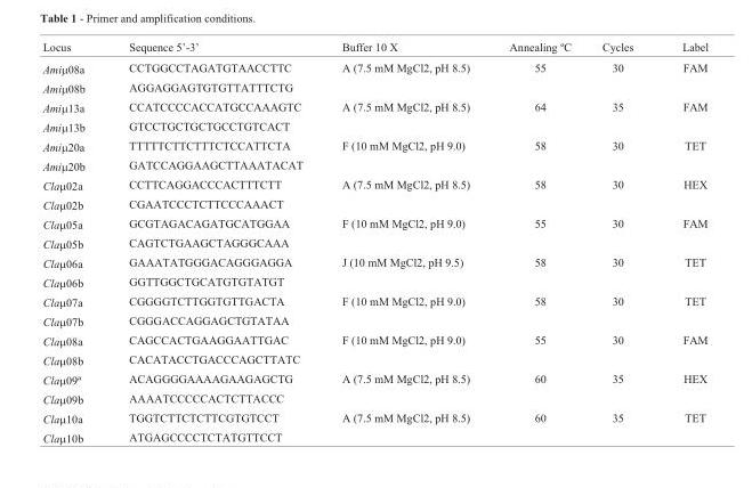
<table><thead><tr><td>Locus</td><td>Sequence 5’-3’</td><td>Buffer 10 X</td><td>Annealing ºC</td><td>Cycles</td><td>Label</td></tr></thead><tbody><tr><td>Amiμ08a</td><td>CCTGGCCTAGATGTAACCTTC</td><td>A (7.5 mM MgCl2, pH 8.5)</td><td>55</td><td>30</td><td>FAM</td></tr><tr><td>Amiμ08b</td><td>AGGAGGAGTGTGTTATTTCTG</td><td></td><td></td><td></td><td></td></tr><tr><td>Amiμ13a</td><td>CCATCCCCACCATGCCAAAGTC</td><td>A (7.5 mM MgCl2, pH 8.5)</td><td>64</td><td>35</td><td>FAM</td></tr><tr><td>Amiμ13b</td><td>GTCCTGCTGCTGCCTGTCACT</td><td></td><td></td><td></td><td></td></tr><tr><td>Amiμ20a</td><td>TTTTTCTTCTTTCTCCATTCTA</td><td>F (10 mM MgCl2, pH 9.0)</td><td>58</td><td>30</td><td>TET</td></tr><tr><td>Amiμ20b</td><td>GATCCAGGAAGCTTAAATACAT</td><td></td><td></td><td></td><td></td></tr><tr><td>Claμ02a</td><td>CCTTCAGGACCCACTTTCTT</td><td>A (7.5 mM MgCl2, pH 8.5)</td><td>58</td><td>30</td><td>HEX</td></tr><tr><td>Claμ02b</td><td>CGAATCCCTCTTCCCAAACT</td><td></td><td></td><td></td><td></td></tr><tr><td>Claμ05a</td><td>GCGTAGACAGATGCATGGAA</td><td>F (10 mM MgCl2, pH 9.0)</td><td>55</td><td>30</td><td>FAM</td></tr><tr><td>Claμ05b</td><td>CAGTCTGAAGCTAGGGCAAA</td><td></td><td></td><td></td><td></td></tr><tr><td>Claμ06a</td><td>GAAATATGGGACAGGGAGGA</td><td>J (10 mM MgCl2, pH 9.5)</td><td>58</td><td>30</td><td>TET</td></tr><tr><td>Claμ06b</td><td>GGTTGGCTGCATGTGTATGT</td><td></td><td></td><td></td><td></td></tr><tr><td>Claμ07a</td><td>CGGGGTCTTGGTGTTGACTA</td><td>F (10 mM MgCl2, pH 9.0)</td><td>58</td><td>30</td><td>TET</td></tr><tr><td>Claμ07b</td><td>CGGGACCAGGAGCTGTATAA</td><td></td><td></td><td></td><td></td></tr><tr><td>Claμ08a</td><td>CAGCCACTGAAGGAATTGAC</td><td>F (10 mM MgCl2, pH 9.0)</td><td>55</td><td>30</td><td>FAM</td></tr><tr><td>Claμ08b</td><td>CACATACCTGACCCAGCTTATC</td><td></td><td></td><td></td><td></td></tr><tr><td>Claμ09ª</td><td>ACAGGGGAAAAGAAGAGCTG</td><td>A (7.5 mM MgCl2, pH 8.5)</td><td>60</td><td>35</td><td>HEX</td></tr><tr><td>Claμ09b</td><td>AAAATCCCCCACTCTTACCC</td><td></td><td></td><td></td><td></td></tr><tr><td>Claμ10a</td><td>TGGTCTTCTCTTCGTGTCCT</td><td>A (7.5 mM MgCl2, pH 8.5)</td><td>60</td><td>35</td><td>TET</td></tr><tr><td>Claμ10b</td><td>ATGAGCCCCTCTATGTTCCT</td><td></td><td></td><td></td><td></td></tr></tbody></table>